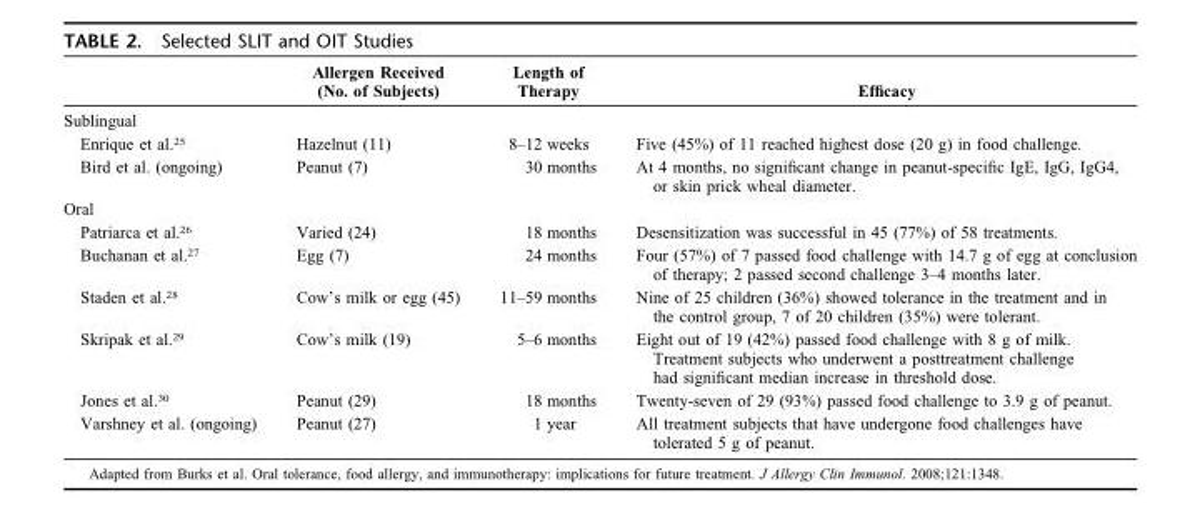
<table><thead><tr><td></td><td>Allergen Received (No. of Subjects)</td><td>Length of Therapy</td><td>Efficacy</td></tr></thead><tbody><tr><td colspan="4">Sublingual</td></tr><tr><td>Enrique et al.25</td><td>Hazelnut (11)</td><td>8–12 weeks</td><td>Five (45%) of 11 reached highest dose (20 g) in food challenge.</td></tr><tr><td>Bird et al. (ongoing)</td><td>Peanut (7)</td><td>30 months</td><td>At 4 months, no significant change in peanut-specific IgE, IgG, IgG4, or skin prick wheal diameter.</td></tr><tr><td colspan="4">Oral</td></tr><tr><td>Patriarca et al.26</td><td>Varied (24)</td><td>18 months</td><td>Desensitization was successful in 45 (77%) of 58 treatments.</td></tr><tr><td>Buchanan et al.27</td><td>Egg (7)</td><td>24 months</td><td>Four (57%) of 7 passed food challenge with 14.7 g of egg at conclusion of therapy; 2 passed second challenge 3–4 months later.</td></tr><tr><td>Staden et al.28</td><td>Cow’s milk or egg (45)</td><td>11–59 months</td><td>Nine of 25 children (36%) showed tolerance in the treatment and in the control group, 7 of 20 children (35%) were tolerant.</td></tr><tr><td>Skripak et al.29</td><td>Cow’s milk (19)</td><td>5–6 months</td><td>Eight out of 19 (42%) passed food challenge with 8 g of milk. Treatment subjects who underwent a posttreatment challenge had significant median increase in threshold dose.</td></tr><tr><td>Jones et al.30</td><td>Peanut (29)</td><td>18 months</td><td>Twenty-seven of 29 (93%) passed food challenge to 3.9 g of peanut.</td></tr><tr><td>Varshney et al. (ongoing)</td><td>Peanut (27)</td><td>1 year</td><td>All treatment subjects that have undergone food challenges have tolerated 5 g of peanut.</td></tr></tbody></table>